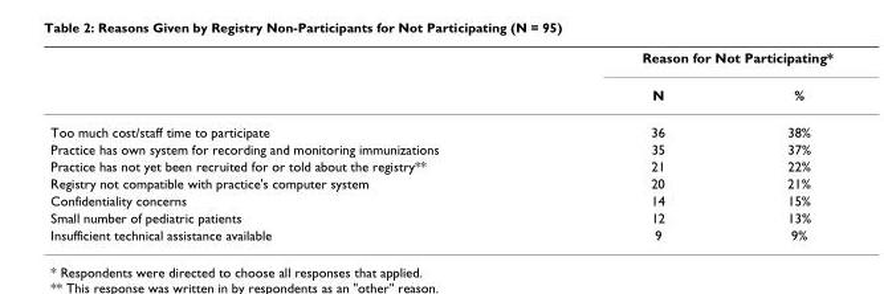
<table><thead><tr><td rowspan="2"></td><td colspan="2">Reason for Not Participating*</td></tr><tr><td>N</td><td>%</td></tr></thead><tbody><tr><td>Too much cost/staff time to participate</td><td>36</td><td>38%</td></tr><tr><td>Practice has own system for recording and monitoring immunizations</td><td>35</td><td>37%</td></tr><tr><td>Practice has not yet been recruited for or told about the registry**</td><td>21</td><td>22%</td></tr><tr><td>Registry not compatible with practice&#x27;s computer system</td><td>20</td><td>21%</td></tr><tr><td>Confidentiality concerns</td><td>14</td><td>15%</td></tr><tr><td>Small number of pediatric patients</td><td>12</td><td>13%</td></tr><tr><td>Insufficient technical assistance available</td><td>9</td><td>9%</td></tr></tbody></table>